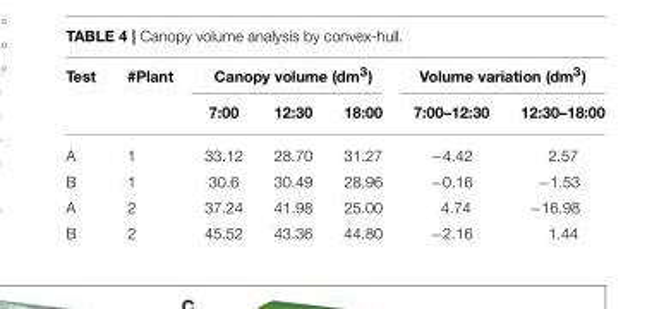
<table><thead><tr><td rowspan="2">Test</td><td rowspan="2">#Plant</td><td colspan="3">Canopy volume (dm<sup>3</sup>)</td><td colspan="2">Volume variation (dm<sup>3</sup>)</td></tr><tr><td>7:00</td><td>12:30</td><td>18:00</td><td>7:00–12:30</td><td>12:30–18:00</td></tr></thead><tbody><tr><td>A</td><td>1</td><td>33.12</td><td>28.70</td><td>31.27</td><td>−4.42</td><td>2.57</td></tr><tr><td>B</td><td>1</td><td>30.6</td><td>30.49</td><td>28.96</td><td>−0.16</td><td>−1.53</td></tr><tr><td>A</td><td>2</td><td>37.24</td><td>41.98</td><td>25.00</td><td>4.74</td><td>−16.98</td></tr><tr><td>B</td><td>2</td><td>45.52</td><td>43.36</td><td>44.80</td><td>−2.16</td><td>1.44</td></tr></tbody></table>